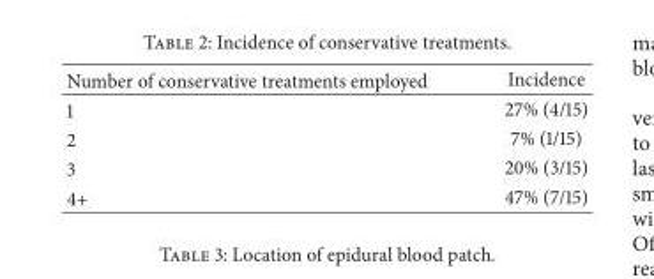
<table><thead><tr><td>Number of conservative treatments employed</td><td>Incidence</td></tr></thead><tbody><tr><td>1</td><td>27% (4/15)</td></tr><tr><td>2</td><td>7% (1/15)</td></tr><tr><td>3</td><td>20% (3/15)</td></tr><tr><td>4+</td><td>47% (7/15)</td></tr></tbody></table>